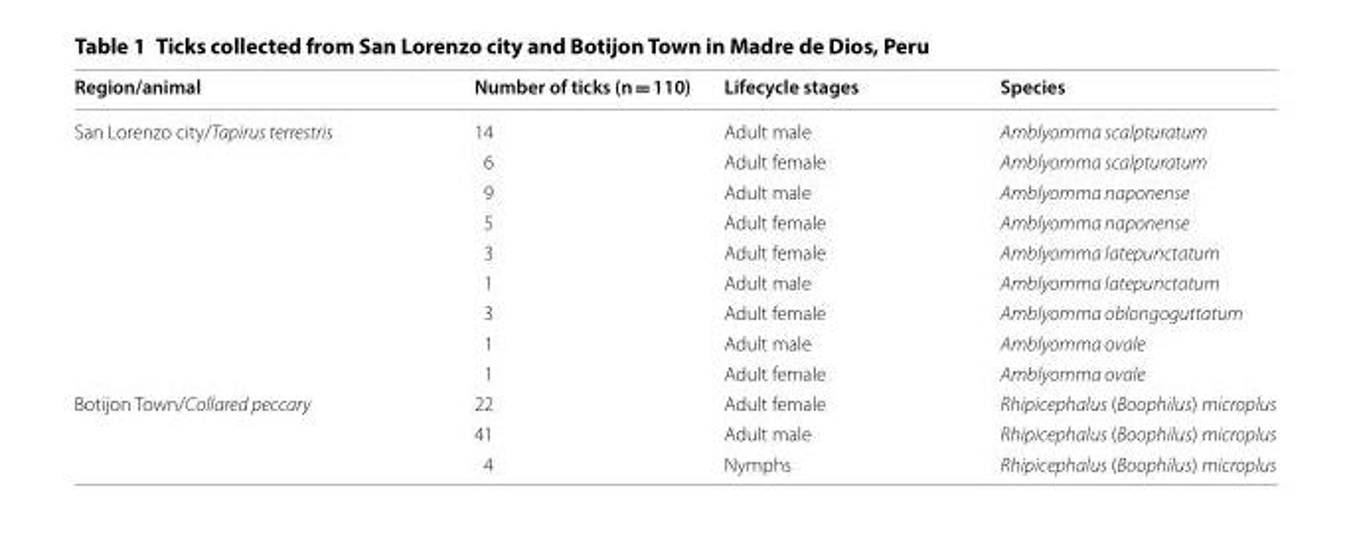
<table><thead><tr><td>Region/animal</td><td>Number of ticks (n = 110)</td><td>Lifecycle stages</td><td>Species</td></tr></thead><tbody><tr><td rowspan="9">San Lorenzo city/Tapirus terrestris</td><td>14</td><td>Adult male</td><td>Amblyomma scalpturatum</td></tr><tr><td>6</td><td>Adult female</td><td>Amblyomma scalpturatum</td></tr><tr><td>9</td><td>Adult male</td><td>Amblyomma naponense</td></tr><tr><td>5</td><td>Adult female</td><td>Amblyomma naponense</td></tr><tr><td>3</td><td>Adult female</td><td>Amblyomma latepunctatum</td></tr><tr><td>1</td><td>Adult male</td><td>Amblyomma latepunctatum</td></tr><tr><td>3</td><td>Adult female</td><td>Amblyomma oblongoguttatum</td></tr><tr><td>1</td><td>Adult male</td><td>Amblyomma ovale</td></tr><tr><td>1</td><td>Adult female</td><td>Amblyomma ovale</td></tr><tr><td rowspan="3">Botijon Town/Collared peccary</td><td>22</td><td>Adult female</td><td>Rhipicephalus (Boophilus) microplus</td></tr><tr><td>41</td><td>Adult male</td><td>Rhipicephalus (Boophilus) microplus</td></tr><tr><td>4</td><td>Nymphs</td><td>Rhipicephalus (Boophilus) microplus</td></tr></tbody></table>